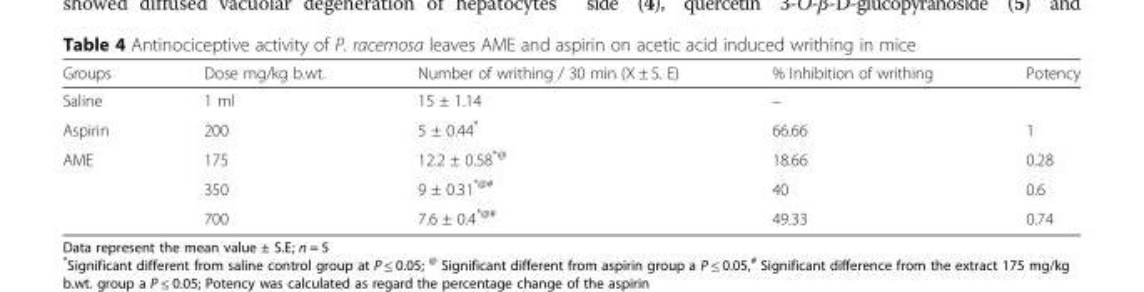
<table><thead><tr><td>Groups</td><td>Dose mg/kg b.wt.</td><td>Number of writhing / 30 min (X ± S. E)</td><td>% Inhibition of writhing</td><td>Potency</td></tr></thead><tbody><tr><td>Saline</td><td>1 ml</td><td>15 ± 1.14</td><td colspan="2">–</td></tr><tr><td>Aspirin</td><td>200</td><td>5 ± 0.44*</td><td>66.66</td><td>1</td></tr><tr><td rowspan="3">AME</td><td>175</td><td>12.2 ± 0.58<sup>*@</sup></td><td>18.66</td><td>0.28</td></tr><tr><td>350</td><td>9 ± 0.31<sup>*@#</sup></td><td>40</td><td>0.6</td></tr><tr><td>700</td><td>7.6 ± 0.4<sup>*@#</sup></td><td>49.33</td><td>0.74</td></tr></tbody></table>